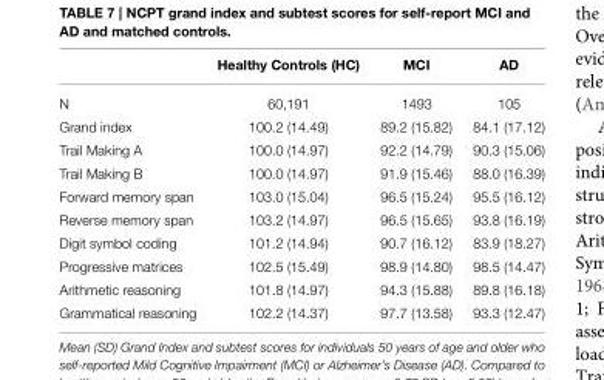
<table><thead><tr><td></td><td>Healthy Controls (HC)</td><td>MCI</td><td>AD</td></tr></thead><tbody><tr><td>N</td><td>60,191</td><td>1493</td><td>105</td></tr><tr><td>Grand index</td><td>100.2 (14.49)</td><td>89.2 (15.82)</td><td>84.1 (17.12)</td></tr><tr><td>Trail Making A</td><td>100.0 (14.97)</td><td>92.2 (14.79)</td><td>90.3 (15.06)</td></tr><tr><td>Trail Making B</td><td>100.0 (14.97)</td><td>91.9 (15.46)</td><td>88.0 (16.39)</td></tr><tr><td>Forward memory span</td><td>103.0 (15.04)</td><td>96.5 (15.24)</td><td>95.5 (16.12)</td></tr><tr><td>Reverse memory span</td><td>103.2 (14.97)</td><td>96.5 (15.65)</td><td>93.8 (16.19)</td></tr><tr><td>Digit symbol coding</td><td>101.2 (14.94)</td><td>90.7 (16.12)</td><td>83.9 (18.27)</td></tr><tr><td>Progressive matrices</td><td>102.5 (15.49)</td><td>98.9 (14.80)</td><td>98.5 (14.47)</td></tr><tr><td>Arithmetic reasoning</td><td>101.8 (14.97)</td><td>94.3 (15.88)</td><td>89.8 (16.18)</td></tr><tr><td>Grammatical reasoning</td><td>102.2 (14.37)</td><td>97.7 (13.58)</td><td>93.3 (12.47)</td></tr></tbody></table>